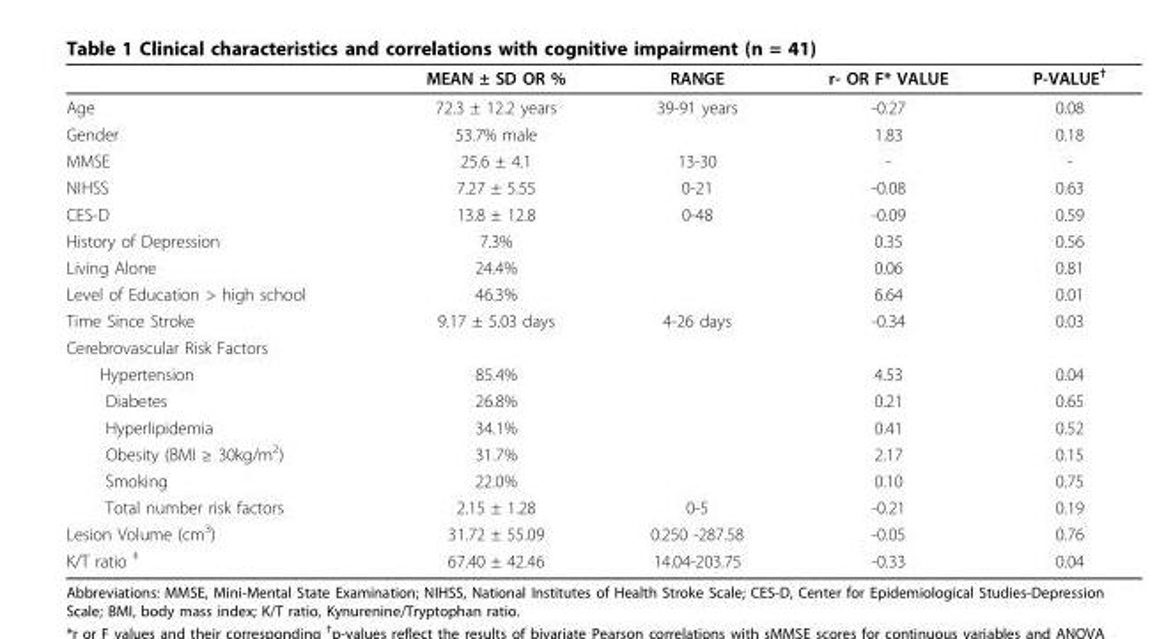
<table><thead><tr><td></td><td>MEAN ± SD OR %</td><td>RANGE</td><td>r- OR F* VALUE</td><td>P-VALUE<sup>†</sup></td></tr></thead><tbody><tr><td>Age</td><td>72.3 ± 12.2 years</td><td>39-91 years</td><td>-0.27</td><td>0.08</td></tr><tr><td>Gender</td><td>53.7% male</td><td></td><td>1.83</td><td>0.18</td></tr><tr><td>MMSE</td><td>25.6 ± 4.1</td><td>13-30</td><td>-</td><td>-</td></tr><tr><td>NIHSS</td><td>7.27 ± 5.55</td><td>0-21</td><td>-0.08</td><td>0.63</td></tr><tr><td>CES-D</td><td>13.8 ± 12.8</td><td>0-48</td><td>-0.09</td><td>0.59</td></tr><tr><td>History of Depression</td><td>7.3%</td><td></td><td>0.35</td><td>0.56</td></tr><tr><td>Living Alone</td><td>24.4%</td><td></td><td>0.06</td><td>0.81</td></tr><tr><td>Level of Education &gt; high school</td><td>46.3%</td><td></td><td>6.64</td><td>0.01</td></tr><tr><td>Time Since Stroke</td><td>9.17 ± 5.03 days</td><td>4-26 days</td><td>-0.34</td><td>0.03</td></tr><tr><td colspan="5">Cerebrovascular Risk Factors</td></tr><tr><td>Hypertension</td><td>85.4%</td><td></td><td>4.53</td><td>0.04</td></tr><tr><td>Diabetes</td><td>26.8%</td><td></td><td>0.21</td><td>0.65</td></tr><tr><td>Hyperlipidemia</td><td>34.1%</td><td></td><td>0.41</td><td>0.52</td></tr><tr><td>Obesity (BMI ≥ 30kg/m<sup>2</sup>)</td><td>31.7%</td><td></td><td>2.17</td><td>0.15</td></tr><tr><td>Smoking</td><td>22.0%</td><td></td><td>0.10</td><td>0.75</td></tr><tr><td>Total number risk factors</td><td>2.15 ± 1.28</td><td>0-5</td><td>-0.21</td><td>0.19</td></tr><tr><td>Lesion Volume (cm<sup>3</sup>)</td><td>31.72 ± 55.09</td><td>0.250 -287.58</td><td>-0.05</td><td>0.76</td></tr><tr><td>K/T ratio <sup>‡</sup></td><td>67.40 ± 42.46</td><td>14.04-203.75</td><td>-0.33</td><td>0.04</td></tr></tbody></table>